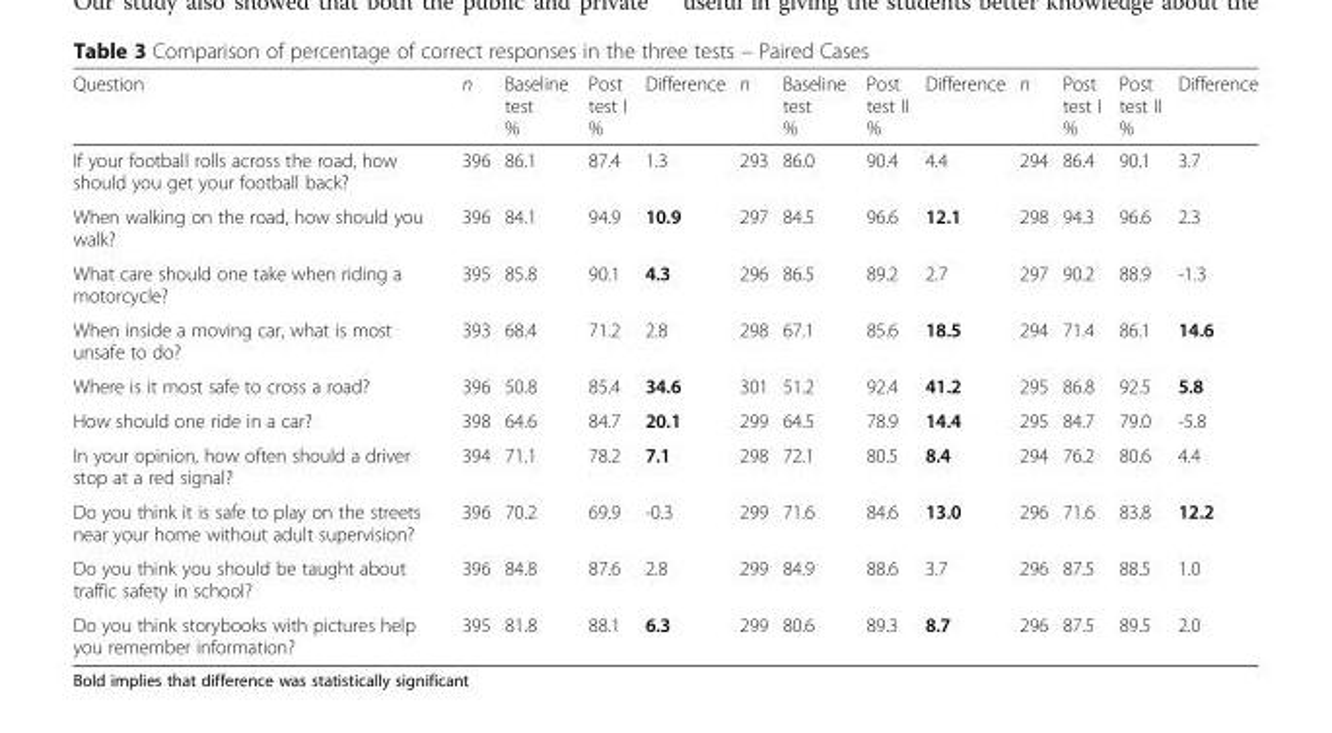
<table><thead><tr><td>Question</td><td>n</td><td>Baseline test %</td><td>Post test I %</td><td>Difference</td><td>n</td><td>Baseline test %</td><td>Post test II %</td><td>Difference</td><td>n</td><td>Post test I %</td><td>Post test II %</td><td>Difference</td></tr></thead><tbody><tr><td>If your football rolls across the road, how should you get your football back?</td><td>396</td><td>86.1</td><td>87.4</td><td>1.3</td><td>293</td><td>86.0</td><td>90.4</td><td>4.4</td><td>294</td><td>86.4</td><td>90.1</td><td>3.7</td></tr><tr><td>When walking on the road, how should you walk?</td><td>396</td><td>84.1</td><td>94.9</td><td>10.9</td><td>297</td><td>84.5</td><td>96.6</td><td>12.1</td><td>298</td><td>94.3</td><td>96.6</td><td>2.3</td></tr><tr><td>What care should one take when riding a motorcycle?</td><td>395</td><td>85.8</td><td>90.1</td><td>4.3</td><td>296</td><td>86.5</td><td>89.2</td><td>2.7</td><td>297</td><td>90.2</td><td>88.9</td><td>-1.3</td></tr><tr><td>When inside a moving car, what is most unsafe to do?</td><td>393</td><td>68.4</td><td>71.2</td><td>2.8</td><td>298</td><td>67.1</td><td>85.6</td><td>18.5</td><td>294</td><td>71.4</td><td>86.1</td><td>14.6</td></tr><tr><td>Where is it most safe to cross a road?</td><td>396</td><td>50.8</td><td>85.4</td><td>34.6</td><td>301</td><td>51.2</td><td>92.4</td><td>41.2</td><td>295</td><td>86.8</td><td>92.5</td><td>5.8</td></tr><tr><td>How should one ride in a car?</td><td>398</td><td>64.6</td><td>84.7</td><td>20.1</td><td>299</td><td>64.5</td><td>78.9</td><td>14.4</td><td>295</td><td>84.7</td><td>79.0</td><td>-5.8</td></tr><tr><td>In your opinion, how often should a driver stop at a red signal?</td><td>394</td><td>71.1</td><td>78.2</td><td>7.1</td><td>298</td><td>72.1</td><td>80.5</td><td>8.4</td><td>294</td><td>76.2</td><td>80.6</td><td>4.4</td></tr><tr><td>Do you think it is safe to play on the streets near your home without adult supervision?</td><td>396</td><td>70.2</td><td>69.9</td><td>-0.3</td><td>299</td><td>71.6</td><td>84.6</td><td>13.0</td><td>296</td><td>71.6</td><td>83.8</td><td>12.2</td></tr><tr><td>Do you think you should be taught about traffic safety in school?</td><td>396</td><td>84.8</td><td>87.6</td><td>2.8</td><td>299</td><td>84.9</td><td>88.6</td><td>3.7</td><td>296</td><td>87.5</td><td>88.5</td><td>1.0</td></tr><tr><td>Do you think storybooks with pictures help you remember information?</td><td>395</td><td>81.8</td><td>88.1</td><td>6.3</td><td>299</td><td>80.6</td><td>89.3</td><td>8.7</td><td>296</td><td>87.5</td><td>89.5</td><td>2.0</td></tr></tbody></table>